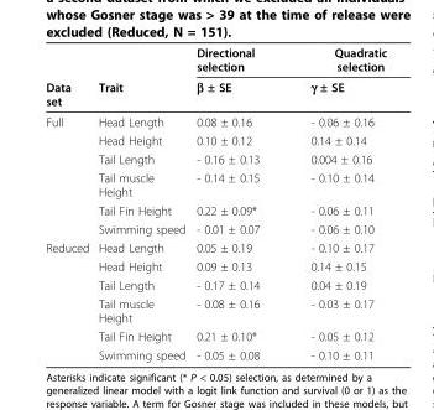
<table><thead><tr><td rowspan="2">Data set</td><td rowspan="2">Trait</td><td rowspan="2">Directional selection β ± SE</td><td rowspan="2">Quadratic selection γ ± SE</td></tr><tr></tr></thead><tbody><tr><td rowspan="6">Full</td><td>Head Length</td><td>0.08 ± 0.16</td><td>- 0.06 ± 0.16</td></tr><tr><td>Head Height</td><td>0.10 ± 0.12</td><td>0.14 ± 0.14</td></tr><tr><td>Tail Length</td><td>- 0.16 ± 0.13</td><td>0.004 ± 0.16</td></tr><tr><td>Tail muscle Height</td><td>- 0.14 ± 0.15</td><td>- 0.10 ± 0.14</td></tr><tr><td>Tail Fin Height</td><td>0.22 ± 0.09*</td><td>- 0.06 ± 0.11</td></tr><tr><td>Swimming speed</td><td>- 0.01 ± 0.07</td><td>- 0.06 ± 0.10</td></tr><tr><td rowspan="6">Reduced</td><td>Head Length</td><td>0.05 ± 0.19</td><td>- 0.10 ± 0.17</td></tr><tr><td>Head Height</td><td>0.09 ± 0.13</td><td>0.14 ± 0.15</td></tr><tr><td>Tail Length</td><td>- 0.17 ± 0.14</td><td>0.04 ± 0.19</td></tr><tr><td>Tail muscle Height</td><td>- 0.08 ± 0.16</td><td>- 0.03 ± 0.17</td></tr><tr><td>Tail Fin Height</td><td>0.21 ± 0.10*</td><td>- 0.05 ± 0.12</td></tr><tr><td>Swimming speed</td><td>- 0.05 ± 0.08</td><td>- 0.10 ± 0.11</td></tr></tbody></table>